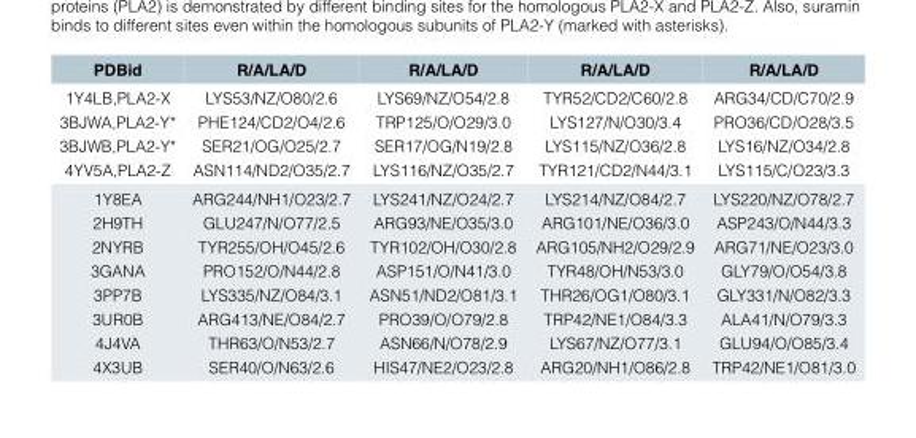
<table><thead><tr><td>PDBid</td><td>R/A/LA/D</td><td>R/A/LA/D</td><td>R/A/LA/D</td><td>R/A/LA/D</td></tr></thead><tbody><tr><td>1Y4LB,PLA2-X 3BJWA,PLA2-Y* 3BJWB,PLA2-Y* 4YV5A,PLA2-Z</td><td>LYS53/NZ/O80/2.6 PHE124/CD2/O4/2.6 SER21/OG/O25/2.7 ASN114/ND2/O35/2.7</td><td>LYS69/NZ/O54/2.8 TRP125/O/O29/3.0 SER17/OG/N19/2.8 LYS116/NZ/O35/2.7</td><td>TYR52/CD2/C60/2.8 LYS127/N/O30/3.4 LYS115/NZ/O36/2.8 TYR121/CD2/N44/3.1</td><td>ARG34/CD/C70/2.9 PRO36/CD/O28/3.5 LYS16/NZ/O34/2.8 LYS115/C/O23/3.3</td></tr><tr><td>1Y8EA 2H9TH 2NYRB 3GANA 3PP7B 3UR0B 4J4VA 4X3UB</td><td>ARG244/NH1/O23/2.7 GLU247/N/O77/2.5 TYR255/OH/O45/2.6 PRO152/O/N44/2.8 LYS335/NZ/O84/3.1 ARG413/NE/O84/2.7 THR63/O/N53/2.7 SER40/O/N63/2.6</td><td>LYS241/NZ/O24/2.7 ARG93/NE/O35/3.0 TYR102/OH/O30/2.8 ASP151/O/N41/3.0 ASN51/ND2/O81/3.1 PRO39/O/O79/2.8 ASN66/N/O78/2.9 HIS47/NE2/O23/2.8</td><td>LYS214/NZ/O84/2.7 ARG101/NE/O36/3.0 ARG105/NH2/O29/2.9 TYR48/OH/N53/3.0 THR26/OG1/O80/3.1 TRP42/NE1/O84/3.3 LYS67/NZ/O77/3.1 ARG20/NH1/O86/2.8</td><td>LYS220/NZ/O78/2.7 ASP243/O/N44/3.3 ARG71/NE/O23/3.0 GLY79/O/O54/3.8 GLY331/N/O82/3.3 ALA41/N/O79/3.3 GLU94/O/O85/3.4 TRP42/NE1/O81/3.0</td></tr></tbody></table>